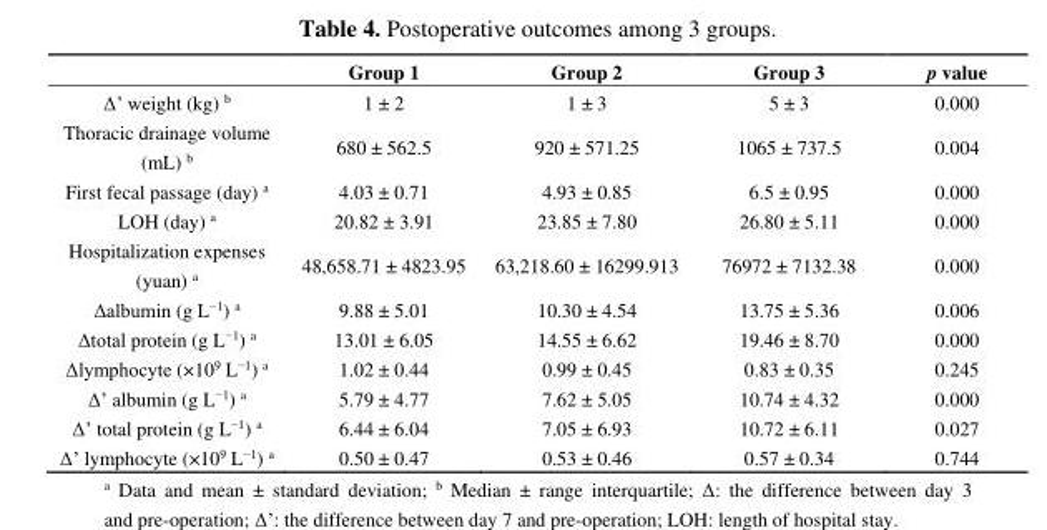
<table><thead><tr><td></td><td>Group 1</td><td>Group 2</td><td>Group 3</td><td>p value</td></tr></thead><tbody><tr><td>Δ’ weight (kg) <sup>b</sup></td><td>1 ± 2</td><td>1 ± 3</td><td>5 ± 3</td><td>0.000</td></tr><tr><td>Thoracic drainage volume (mL) <sup>b</sup></td><td>680 ± 562.5</td><td>920 ± 571.25</td><td>1065 ± 737.5</td><td>0.004</td></tr><tr><td>First fecal passage (day) <sup>a</sup></td><td>4.03 ± 0.71</td><td>4.93 ± 0.85</td><td>6.5 ± 0.95</td><td>0.000</td></tr><tr><td>LOH (day) <sup>a</sup></td><td>20.82 ± 3.91</td><td>23.85 ± 7.80</td><td>26.80 ± 5.11</td><td>0.000</td></tr><tr><td>Hospitalization expenses (yuan) <sup>a</sup></td><td>48,658.71 ± 4823.95</td><td>63,218.60 ± 16299.913</td><td>76972 ± 7132.38</td><td>0.000</td></tr><tr><td>Δalbumin (g L<sup>−1</sup>) <sup>a</sup></td><td>9.88 ± 5.01</td><td>10.30 ± 4.54</td><td>13.75 ± 5.36</td><td>0.006</td></tr><tr><td>Δtotal protein (g L<sup>−1</sup>) <sup>a</sup></td><td>13.01 ± 6.05</td><td>14.55 ± 6.62</td><td>19.46 ± 8.70</td><td>0.000</td></tr><tr><td>Δlymphocyte (×10<sup>9</sup> L<sup>−1</sup>) <sup>a</sup></td><td>1.02 ± 0.44</td><td>0.99 ± 0.45</td><td>0.83 ± 0.35</td><td>0.245</td></tr><tr><td>Δ’ albumin (g L<sup>−1</sup>) <sup>a</sup></td><td>5.79 ± 4.77</td><td>7.62 ± 5.05</td><td>10.74 ± 4.32</td><td>0.000</td></tr><tr><td>Δ’ total protein (g L<sup>−1</sup>) <sup>a</sup></td><td>6.44 ± 6.04</td><td>7.05 ± 6.93</td><td>10.72 ± 6.11</td><td>0.027</td></tr><tr><td>Δ’ lymphocyte (×10<sup>9</sup> L<sup>−1</sup>) <sup>a</sup></td><td>0.50 ± 0.47</td><td>0.53 ± 0.46</td><td>0.57 ± 0.34</td><td>0.744</td></tr></tbody></table>